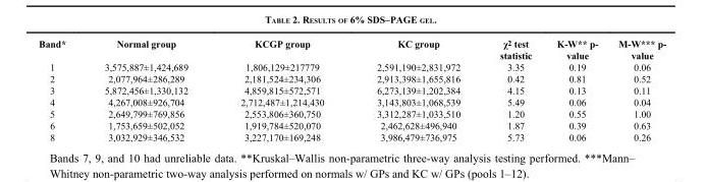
<table><thead><tr><td>Band*</td><td>Normal group</td><td>KCGP group</td><td>KC group</td><td>χ<sup>2</sup> test statistic</td><td>K-W** p- value</td><td>M-W*** p- value</td></tr></thead><tbody><tr><td>1</td><td>3,575,887±1,424,689</td><td>1,806,129±217779</td><td>2,591,190±2,831,972</td><td>3.35</td><td>0.19</td><td>0.06</td></tr><tr><td>2</td><td>2,077,964±286,289</td><td>2,181,524±234,306</td><td>2,913,398±1,655,816</td><td>0.42</td><td>0.81</td><td>0.52</td></tr><tr><td>3</td><td>5,872,456±1,330,132</td><td>4,859,815±572,571</td><td>6,273,139±1,202,384</td><td>4.15</td><td>0.13</td><td>0.11</td></tr><tr><td>4</td><td>4,267,008±926,704</td><td>2,712,487±1,214,430</td><td>3,143,803±1,068,539</td><td>5.49</td><td>0.06</td><td>0.04</td></tr><tr><td>5</td><td>2,649,799±769,856</td><td>2,553,806±360,750</td><td>3,312,287±1,033,510</td><td>1.20</td><td>0.55</td><td>1.00</td></tr><tr><td>6</td><td>1,753,659±502,052</td><td>1,919,784±520,070</td><td>2,462,628±496,940</td><td>1.87</td><td>0.39</td><td>0.63</td></tr><tr><td>8</td><td>3,032,929±346,532</td><td>3,227,170±169,248</td><td>3,986,479±736,975</td><td>5.73</td><td>0.06</td><td>0.26</td></tr></tbody></table>